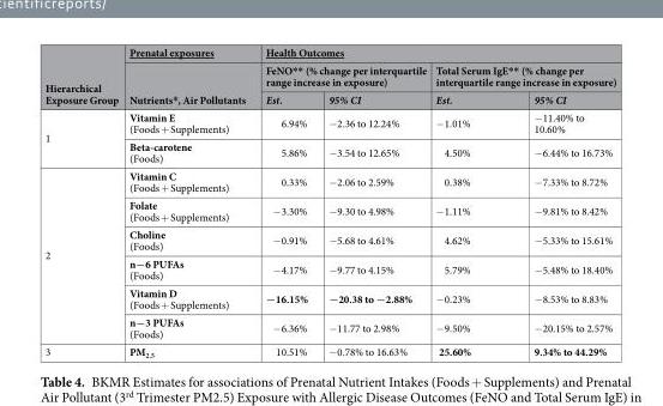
<table><thead><tr><td rowspan="3">Hierarchical Exposure Group</td><td rowspan="3">Prenatal exposures Nutrients*, Air Pollutants</td><td colspan="4">Health Outcomes</td></tr><tr><td colspan="2">FeNO** (% change per interquartile range increase in exposure)</td><td colspan="2">Total Serum IgE** (% change per interquartile range increase in exposure)</td></tr><tr><td>Est.</td><td>95% CI</td><td>Est.</td><td>95% CI</td></tr></thead><tbody><tr><td rowspan="2">1</td><td>Vitamin E (Foods + Supplements)</td><td>6.94%</td><td>−2.36 to 12.24%</td><td>−1.01%</td><td>−11.40% to 10.60%</td></tr><tr><td>Beta-carotene (Foods)</td><td>5.86%</td><td>−3.54 to 12.65%</td><td>4.50%</td><td>−6.44% to 16.73%</td></tr><tr><td rowspan="6">2</td><td>Vitamin C (Foods + Supplements)</td><td>0.33%</td><td>−2.06 to 2.59%</td><td>0.38%</td><td>−7.33% to 8.72%</td></tr><tr><td>Folate (Foods + Supplements)</td><td>−3.30%</td><td>−9.30 to 4.98%</td><td>−1.11%</td><td>−9.81% to 8.42%</td></tr><tr><td>Choline (Foods)</td><td>−0.91%</td><td>−5.68 to 4.61%</td><td>4.62%</td><td>−5.33% to 15.61%</td></tr><tr><td>n−6 PUFAs (Foods)</td><td>−4.17%</td><td>−9.77 to 4.15%</td><td>5.79%</td><td>−5.48% to 18.40%</td></tr><tr><td>Vitamin D (Foods + Supplements)</td><td>−16.15%</td><td>−20.38 to −2.88%</td><td>−0.23%</td><td>−8.53% to 8.83%</td></tr><tr><td>n−3 PUFAs (Foods)</td><td>−6.36%</td><td>−11.77 to 2.98%</td><td>−9.50%</td><td>−20.15% to 2.57%</td></tr><tr><td>3</td><td>PM<sub>2.5</sub></td><td>10.51%</td><td>−0.78% to 16.63%</td><td>25.60%</td><td>9.34% to 44.29%</td></tr></tbody></table>